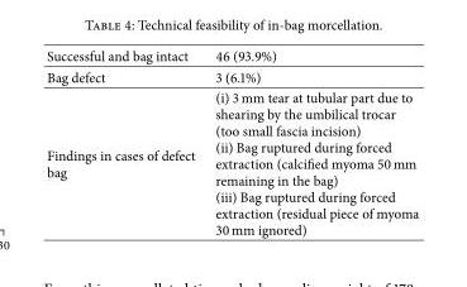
<table><tbody><tr><td>Successful and bag intact</td><td>46 (93.9%)</td></tr><tr><td>Bag defect</td><td>3 (6.1%)</td></tr><tr><td>Findings in cases of defect bag</td><td>(i) 3 mm tear at tubular part due to shearing by the umbilical trocar (too small fascia incision) (ii) Bag ruptured during forced extraction (calcified myoma 50 mm remaining in the bag) (iii) Bag ruptured during forced extraction (residual piece of myoma 30 mm ignored)</td></tr></tbody></table>